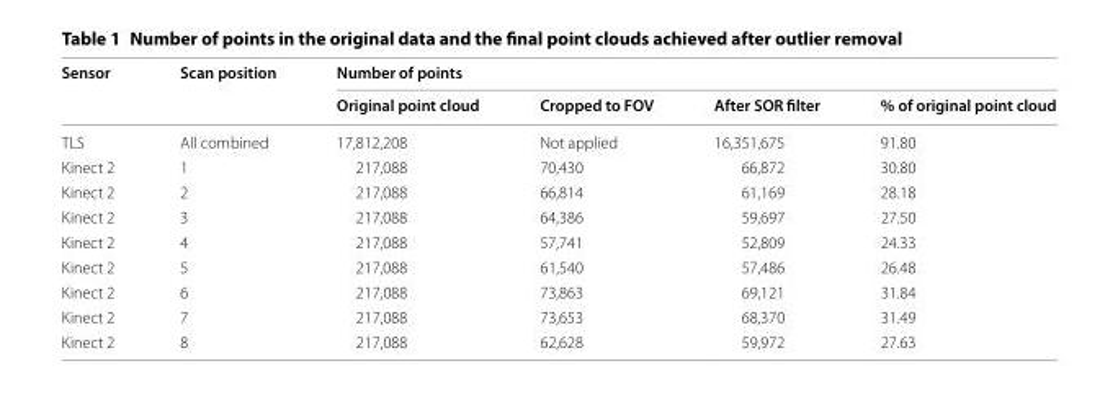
<table><thead><tr><td rowspan="2">Sensor</td><td rowspan="2">Scan position</td><td colspan="4">Number of points</td></tr><tr><td>Original point cloud</td><td>Cropped to FOV</td><td>After SOR filter</td><td>% of original point cloud</td></tr></thead><tbody><tr><td>TLS</td><td>All combined</td><td>17,812,208</td><td>Not applied</td><td>16,351,675</td><td>91.80</td></tr><tr><td>Kinect 2</td><td>1</td><td>217,088</td><td>70,430</td><td>66,872</td><td>30.80</td></tr><tr><td>Kinect 2</td><td>2</td><td>217,088</td><td>66,814</td><td>61,169</td><td>28.18</td></tr><tr><td>Kinect 2</td><td>3</td><td>217,088</td><td>64,386</td><td>59,697</td><td>27.50</td></tr><tr><td>Kinect 2</td><td>4</td><td>217,088</td><td>57,741</td><td>52,809</td><td>24.33</td></tr><tr><td>Kinect 2</td><td>5</td><td>217,088</td><td>61,540</td><td>57,486</td><td>26.48</td></tr><tr><td>Kinect 2</td><td>6</td><td>217,088</td><td>73,863</td><td>69,121</td><td>31.84</td></tr><tr><td>Kinect 2</td><td>7</td><td>217,088</td><td>73,653</td><td>68,370</td><td>31.49</td></tr><tr><td>Kinect 2</td><td>8</td><td>217,088</td><td>62,628</td><td>59,972</td><td>27.63</td></tr></tbody></table>